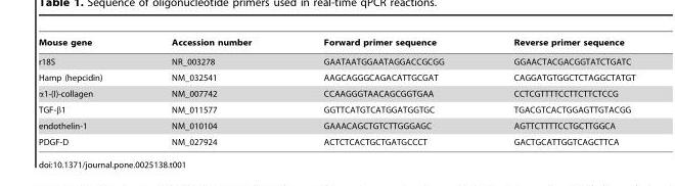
<table><thead><tr><td>Mouse gene</td><td>Accession number</td><td>Forward primer sequence</td><td>Reverse primer sequence</td></tr></thead><tbody><tr><td>r18S</td><td>NR_003278</td><td>GAATAATGGAATAGGACCGCGG</td><td>GGAACTACGACGGTATCTGATC</td></tr><tr><td>Hamp (hepcidin)</td><td>NM_032541</td><td>AAGCAGGGCAGACATTGCGAT</td><td>CAGGATGTGGCTCTAGGCTATGT</td></tr><tr><td>α1-(I)-collagen</td><td>NM_007742</td><td>CCAAGGGTAACAGCGGTGAA</td><td>CCTCGTTTTCCTTCTTCTCCG</td></tr><tr><td>TGF-β1</td><td>NM_011577</td><td>GGTTCATGTCATGGATGGTGC</td><td>TGACGTCACTGGAGTTGTACGG</td></tr><tr><td>endothelin-1</td><td>NM_010104</td><td>GAAACAGCTGTCTTGGGAGC</td><td>AGTTCTTTTCCTGCTTGGCA</td></tr><tr><td>PDGF-D</td><td>NM_027924</td><td>ACTCTCACTGCTGATGCCCT</td><td>GACTGCATTGGTCAGCTTCA</td></tr></tbody></table>